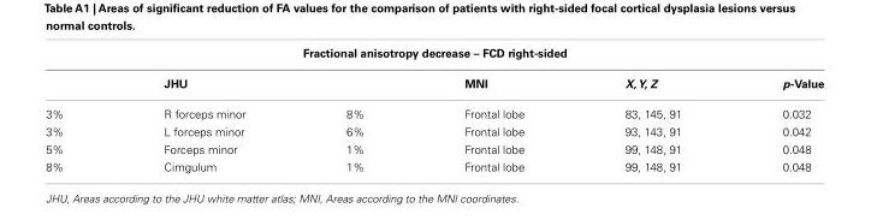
<table><thead><tr><td colspan="6">Fractional anisotropy decrease – FCD right-sided</td></tr><tr><td></td><td>JHU</td><td></td><td>MNI</td><td>X,Y, Z</td><td>p-Value</td></tr></thead><tbody><tr><td>3%</td><td>R forceps minor</td><td>8%</td><td>Frontal lobe</td><td>83, 145, 91</td><td>0.032</td></tr><tr><td>3%</td><td>L forceps minor</td><td>6%</td><td>Frontal lobe</td><td>93, 143, 91</td><td>0.042</td></tr><tr><td>5%</td><td>Forceps minor</td><td>1%</td><td>Frontal lobe</td><td>99, 148, 91</td><td>0.048</td></tr><tr><td>8%</td><td>Cimgulum</td><td>1%</td><td>Frontal lobe</td><td>99, 148, 91</td><td>0.048</td></tr></tbody></table>